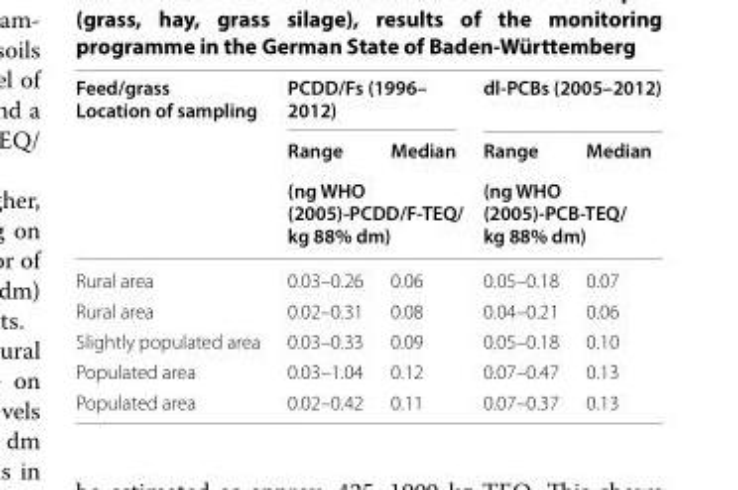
<table><thead><tr><td rowspan="3">Feed/grass Location of sampling</td><td colspan="2">PCDD/Fs (1996– 2012)</td><td colspan="2">dl‑PCBs (2005–2012)</td></tr><tr><td>Range</td><td>Median</td><td>Range</td><td>Median</td></tr><tr><td colspan="2">(ng WHO (2005)‑PCDD/F‑TEQ/ kg 88% dm)</td><td colspan="2">(ng WHO (2005)‑PCB‑TEQ/ kg 88% dm)</td></tr></thead><tbody><tr><td>Rural area</td><td>0.03–0.26</td><td>0.06</td><td>0.05–0.18</td><td>0.07</td></tr><tr><td>Rural area</td><td>0.02–0.31</td><td>0.08</td><td>0.04–0.21</td><td>0.06</td></tr><tr><td>Slightly populated area</td><td>0.03–0.33</td><td>0.09</td><td>0.05–0.18</td><td>0.10</td></tr><tr><td>Populated area</td><td>0.03–1.04</td><td>0.12</td><td>0.07–0.47</td><td>0.13</td></tr><tr><td>Populated area</td><td>0.02–0.42</td><td>0.11</td><td>0.07–0.37</td><td>0.13</td></tr></tbody></table>